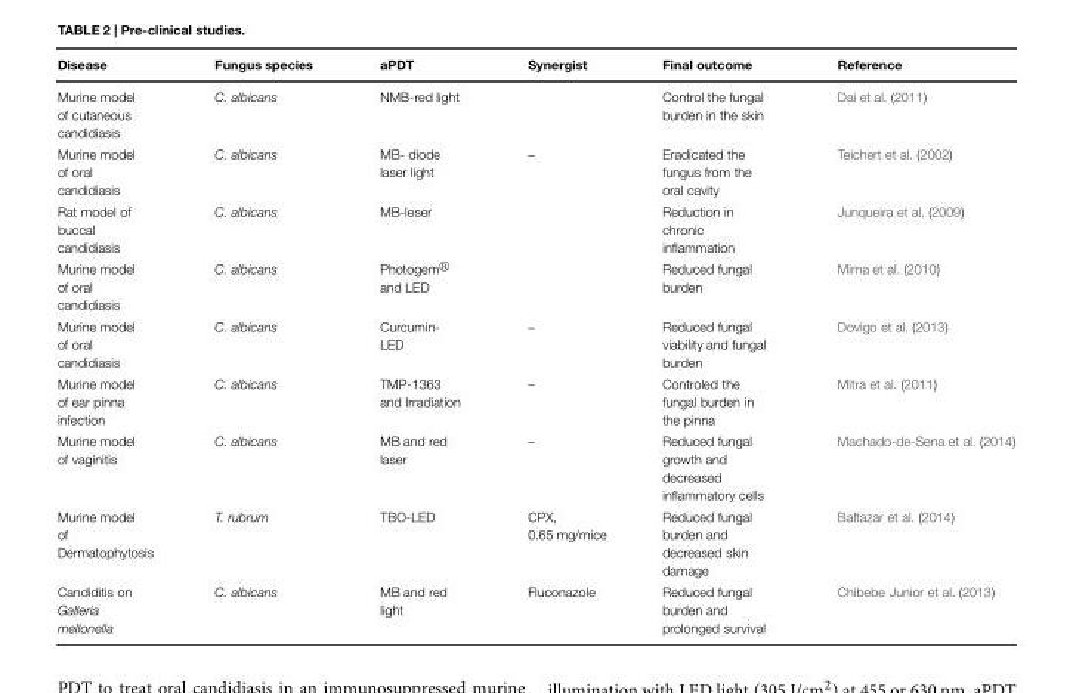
<table><thead><tr><td>Disease</td><td>Fungus species</td><td>aPDT</td><td>Synergist</td><td>Final outcome</td><td>Reference</td></tr></thead><tbody><tr><td>Murine model of cutaneous candidiasis</td><td>C. albicans</td><td>NMB-red light</td><td></td><td>Control the fungal burden in the skin</td><td>Dai et al. (2011)</td></tr><tr><td>Murine model of oral candidiasis</td><td>C. albicans</td><td>MB- diode laser light</td><td>–</td><td>Eradicated the fungus from the oral cavity</td><td>Teichert et al. (2002)</td></tr><tr><td>Rat model of buccal candidiasis</td><td>C. albicans</td><td>MB-leser</td><td></td><td>Reduction in chronic inflammation</td><td>Junqueira et al. (2009)</td></tr><tr><td>Murine model of oral candidiasis</td><td>C. albicans</td><td>Photogem<sup>®</sup> and LED</td><td></td><td>Reduced fungal burden</td><td>Mima et al. (2010)</td></tr><tr><td>Murine model of oral candidiasis</td><td>C. albicans</td><td>Curcumin- LED</td><td>–</td><td>Reduced fungal viability and fungal burden</td><td>Dovigo et al. (2013)</td></tr><tr><td>Murine model of ear pinna infection</td><td>C. albicans</td><td>TMP-1363 and Irradiation</td><td>–</td><td>Controled the fungal burden in the pinna</td><td>Mitra et al. (2011)</td></tr><tr><td>Murine model of vaginitis</td><td>C. albicans</td><td>MB and red laser</td><td>–</td><td>Reduced fungal growth and decreased inflammatory cells</td><td>Machado-de-Sena et al. (2014)</td></tr><tr><td>Murine model of Dermatophytosis</td><td>T. rubrum</td><td>TBO-LED</td><td>CPX, 0.65 mg/mice</td><td>Reduced fungal burden and decreased skin damage</td><td>Baltazar et al. (2014)</td></tr><tr><td>Candiditis on Galleria mellonella</td><td>C. albicans</td><td>MB and red light</td><td>Fluconazole</td><td>Reduced fungal burden and prolonged survival</td><td>Chibebe Junior et al. (2013)</td></tr></tbody></table>